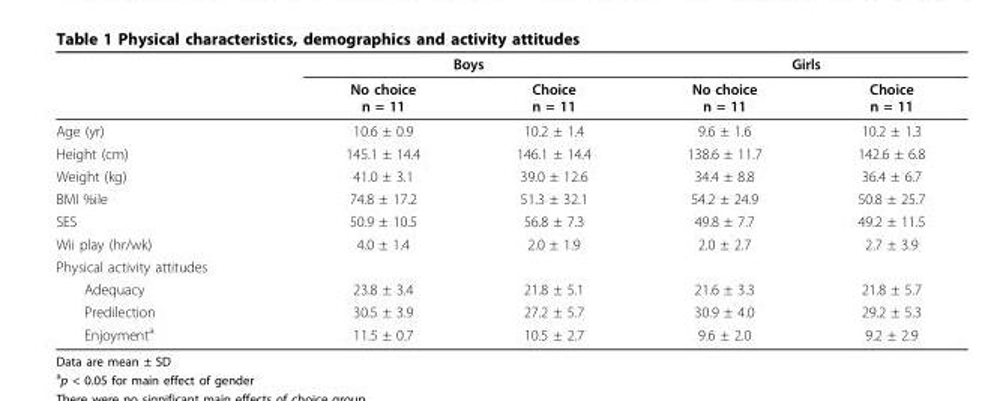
<table><thead><tr><td rowspan="2"></td><td colspan="2">Boys</td><td colspan="2">Girls</td></tr><tr><td>No choice n = 11</td><td>Choice n = 11</td><td>No choice n = 11</td><td>Choice n = 11</td></tr></thead><tbody><tr><td>Age (yr)</td><td>10.6 ± 0.9</td><td>10.2 ± 1.4</td><td>9.6 ± 1.6</td><td>10.2 ± 1.3</td></tr><tr><td>Height (cm)</td><td>145.1 ± 14.4</td><td>146.1 ± 14.4</td><td>138.6 ± 11.7</td><td>142.6 ± 6.8</td></tr><tr><td>Weight (kg)</td><td>41.0 ± 3.1</td><td>39.0 ± 12.6</td><td>34.4 ± 8.8</td><td>36.4 ± 6.7</td></tr><tr><td>BMI %ile</td><td>74.8 ± 17.2</td><td>51.3 ± 32.1</td><td>54.2 ± 24.9</td><td>50.8 ± 25.7</td></tr><tr><td>SES</td><td>50.9 ± 10.5</td><td>56.8 ± 7.3</td><td>49.8 ± 7.7</td><td>49.2 ± 11.5</td></tr><tr><td>Wii play (hr/wk)</td><td>4.0 ± 1.4</td><td>2.0 ± 1.9</td><td>2.0 ± 2.7</td><td>2.7 ± 3.9</td></tr><tr><td colspan="5">Physical activity attitudes</td></tr><tr><td>Adequacy</td><td>23.8 ± 3.4</td><td>21.8 ± 5.1</td><td>21.6 ± 3.3</td><td>21.8 ± 5.7</td></tr><tr><td>Predilection</td><td>30.5 ± 3.9</td><td>27.2 ± 5.7</td><td>30.9 ± 4.0</td><td>29.2 ± 5.3</td></tr><tr><td>Enjoyment<sup>a</sup></td><td>11.5 ± 0.7</td><td>10.5 ± 2.7</td><td>9.6 ± 2.0</td><td>9.2 ± 2.9</td></tr></tbody></table>